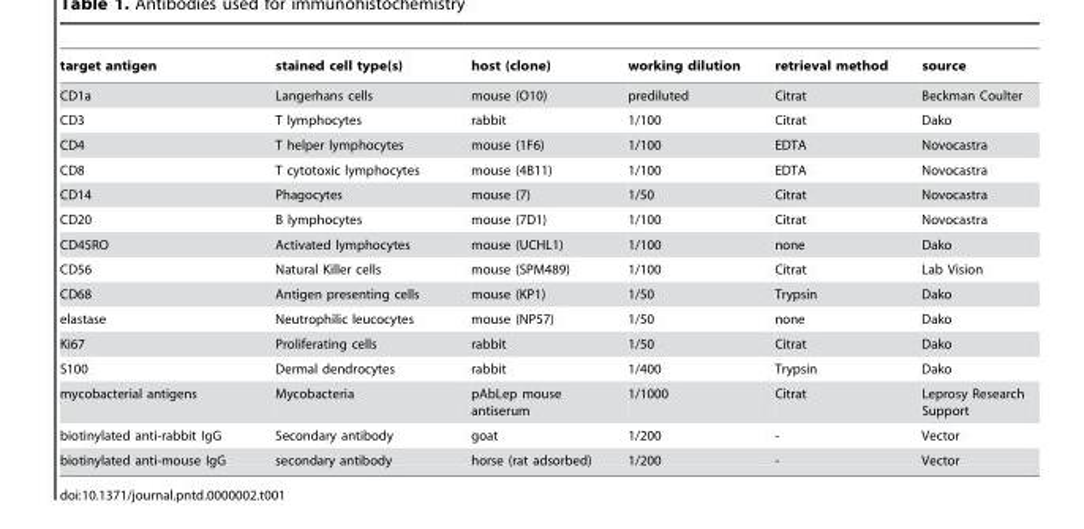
<table><thead><tr><td>target antigen</td><td>stained cell type(s)</td><td>host (clone)</td><td>working dilution</td><td>retrieval method</td><td>source</td></tr></thead><tbody><tr><td>CD1a</td><td>Langerhans cells</td><td>mouse (O10)</td><td>prediluted</td><td>Citrat</td><td>Beckman Coulter</td></tr><tr><td>CD3</td><td>T lymphocytes</td><td>rabbit</td><td>1/100</td><td>Citrat</td><td>Dako</td></tr><tr><td>CD4</td><td>T helper lymphocytes</td><td>mouse (1F6)</td><td>1/100</td><td>EDTA</td><td>Novocastra</td></tr><tr><td>CD8</td><td>T cytotoxic lymphocytes</td><td>mouse (4B11)</td><td>1/100</td><td>EDTA</td><td>Novocastra</td></tr><tr><td>CD14</td><td>Phagocytes</td><td>mouse (7)</td><td>1/50</td><td>Citrat</td><td>Novocastra</td></tr><tr><td>CD20</td><td>B lymphocytes</td><td>mouse (7D1)</td><td>1/100</td><td>Citrat</td><td>Novocastra</td></tr><tr><td>CD45RO</td><td>Activated lymphocytes</td><td>mouse (UCHL1)</td><td>1/100</td><td>none</td><td>Dako</td></tr><tr><td>CD56</td><td>Natural Killer cells</td><td>mouse (SPM489)</td><td>1/100</td><td>Citrat</td><td>Lab Vision</td></tr><tr><td>CD68</td><td>Antigen presenting cells</td><td>mouse (KP1)</td><td>1/50</td><td>Trypsin</td><td>Dako</td></tr><tr><td>elastase</td><td>Neutrophilic leucocytes</td><td>mouse (NP57)</td><td>1/50</td><td>none</td><td>Dako</td></tr><tr><td>Ki67</td><td>Proliferating cells</td><td>rabbit</td><td>1/50</td><td>Citrat</td><td>Dako</td></tr><tr><td>S100</td><td>Dermal dendrocytes</td><td>rabbit</td><td>1/400</td><td>Trypsin</td><td>Dako</td></tr><tr><td>mycobacterial antigens</td><td>Mycobacteria</td><td>pAbLep mouse antiserum</td><td>1/1000</td><td>Citrat</td><td>Leprosy Research Support</td></tr><tr><td>biotinylated anti-rabbit IgG</td><td>Secondary antibody</td><td>goat</td><td>1/200</td><td>-</td><td>Vector</td></tr><tr><td>biotinylated anti-mouse IgG</td><td>secondary antibody</td><td>horse (rat adsorbed)</td><td>1/200</td><td>-</td><td>Vector</td></tr></tbody></table>